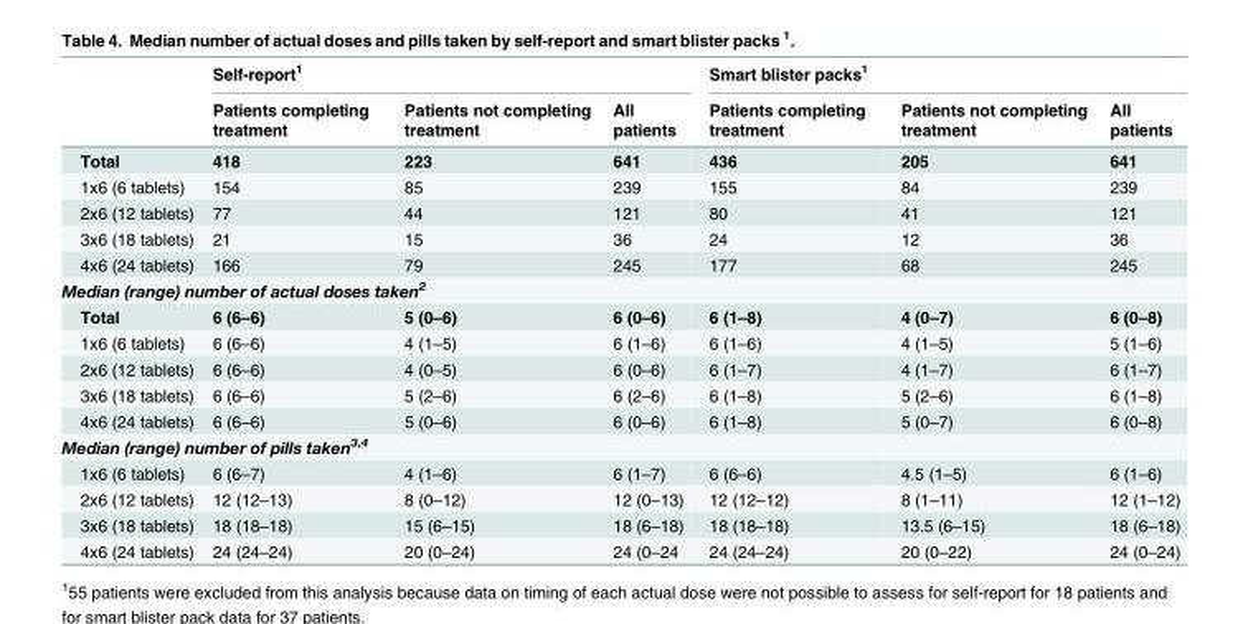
<table><thead><tr><td rowspan="2"></td><td colspan="3">Self-report<sup>1</sup></td><td colspan="3">Smart blister packs<sup>1</sup></td></tr><tr><td>Patients completing treatment</td><td>Patients not completing treatment</td><td>All patients</td><td>Patients completing treatment</td><td>Patients not completing treatment</td><td>All patients</td></tr></thead><tbody><tr><td>Total</td><td>418</td><td>223</td><td>641</td><td>436</td><td>205</td><td>641</td></tr><tr><td>1x6 (6 tablets)</td><td>154</td><td>85</td><td>239</td><td>155</td><td>84</td><td>239</td></tr><tr><td>2x6 (12 tablets)</td><td>77</td><td>44</td><td>121</td><td>80</td><td>41</td><td>121</td></tr><tr><td>3x6 (18 tablets)</td><td>21</td><td>15</td><td>36</td><td>24</td><td>12</td><td>36</td></tr><tr><td>4x6 (24 tablets)</td><td>166</td><td>79</td><td>245</td><td>177</td><td>68</td><td>245</td></tr><tr><td colspan="7">Median (range) number of actual doses taken<sup>2</sup></td></tr><tr><td>Total</td><td>6 (6–6)</td><td>5 (0–6)</td><td>6 (0–6)</td><td>6 (1–8)</td><td>4 (0–7)</td><td>6 (0–8)</td></tr><tr><td>1x6 (6 tablets)</td><td>6 (6–6)</td><td>4 (1–5)</td><td>6 (1–6)</td><td>6 (1–6)</td><td>4 (1–5)</td><td>5 (1–6)</td></tr><tr><td>2x6 (12 tablets)</td><td>6 (6–6)</td><td>4 (0–5)</td><td>6 (0–6)</td><td>6 (1–7)</td><td>4 (1–7)</td><td>6 (1–7)</td></tr><tr><td>3x6 (18 tablets)</td><td>6 (6–6)</td><td>5 (2–6)</td><td>6 (2–6)</td><td>6 (1–8)</td><td>5 (2–6)</td><td>6 (1–8)</td></tr><tr><td>4x6 (24 tablets)</td><td>6 (6–6)</td><td>5 (0–6)</td><td>6 (0–6)</td><td>6 (1–8)</td><td>5 (0–7)</td><td>6 (0–8)</td></tr><tr><td colspan="7">Median (range) number of pills taken<sup>3,4</sup></td></tr><tr><td>1x6 (6 tablets)</td><td>6 (6–7)</td><td>4 (1–6)</td><td>6 (1–7)</td><td>6 (6–6)</td><td>4.5 (1–5)</td><td>6 (1–6)</td></tr><tr><td>2x6 (12 tablets)</td><td>12 (12–13)</td><td>8 (0–12)</td><td>12 (0–13)</td><td>12 (12–12)</td><td>8 (1–11)</td><td>12 (1–12)</td></tr><tr><td>3x6 (18 tablets)</td><td>18 (18–18)</td><td>15 (6–15)</td><td>18 (6–18)</td><td>18 (18–18)</td><td>13.5 (6–15)</td><td>18 (6–18)</td></tr><tr><td>4x6 (24 tablets)</td><td>24 (24–24)</td><td>20 (0–24)</td><td>24 (0–24</td><td>24 (24–24)</td><td>20 (0–22)</td><td>24 (0–24)</td></tr></tbody></table>